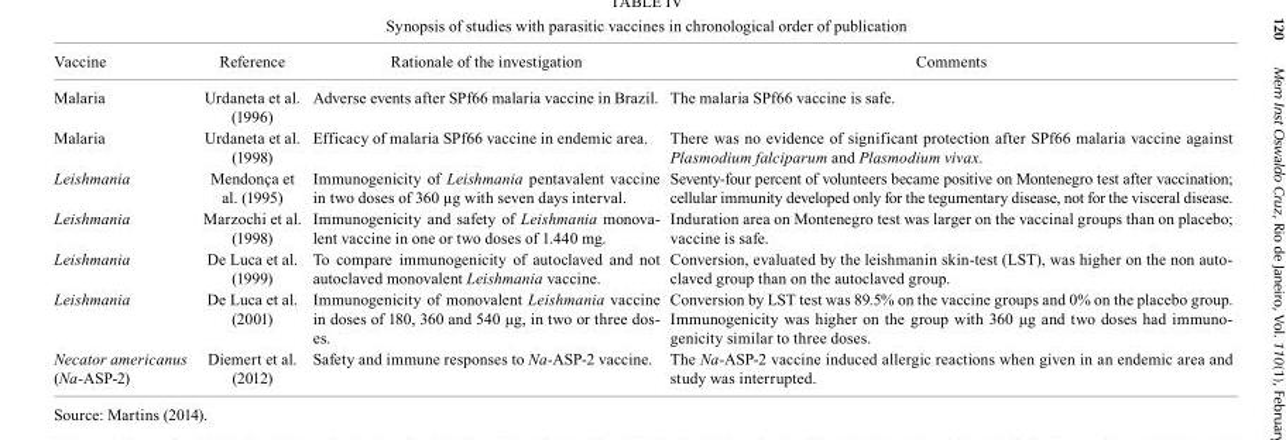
<table><thead><tr><td>Vaccine</td><td>Reference</td><td>Rationale of the investigation</td><td>Comments</td></tr></thead><tbody><tr><td>Malaria</td><td>Urdaneta et al. (1996)</td><td>Adverse events after SPf66 malaria vaccine in Brazil.</td><td>The malaria SPf66 vaccine is safe.</td></tr><tr><td>Malaria</td><td>Urdaneta et al. (1998)</td><td>Efficacy of malaria SPf66 vaccine in endemic area.</td><td>There was no evidence of significant protection after SPf66 malaria vaccine against Plasmodium falciparum and Plasmodium vivax.</td></tr><tr><td>Leishmania</td><td>Mendonça et al. (1995)</td><td>Immunogenicity of Leishmania pentavalent vaccine in two doses of 360 µg with seven days interval.</td><td>Seventy-four percent of volunteers became positive on Montenegro test after vaccination; cellular immunity developed only for the tegumentary disease, not for the visceral disease.</td></tr><tr><td>Leishmania</td><td>Marzochi et al. (1998)</td><td>Immunogenicity and safety of Leishmania monova- lent vaccine in one or two doses of 1.440 mg.</td><td>Induration area on Montenegro test was larger on the vaccinal groups than on placebo; vaccine is safe.</td></tr><tr><td>Leishmania</td><td>De Luca et al. (1999)</td><td>To compare immunogenicity of autoclaved and not autoclaved monovalent Leishmania vaccine.</td><td>Conversion, evaluated by the leishmanin skin-test (LST), was higher on the non auto- claved group than on the autoclaved group.</td></tr><tr><td>Leishmania</td><td>De Luca et al. (2001)</td><td>Immunogenicity of monovalent Leishmania vaccine in doses of 180, 360 and 540 µg, in two or three dos- es.</td><td>Conversion by LST test was 89.5% on the vaccine groups and 0% on the placebo group. Immunogenicity was higher on the group with 360 µg and two doses had immuno- genicity similar to three doses.</td></tr><tr><td>Necator americanus (Na-ASP-2)</td><td>Diemert et al. (2012)</td><td>Safety and immune responses to Na-ASP-2 vaccine.</td><td>The Na-ASP-2 vaccine induced allergic reactions when given in an endemic area and study was interrupted.</td></tr></tbody></table>